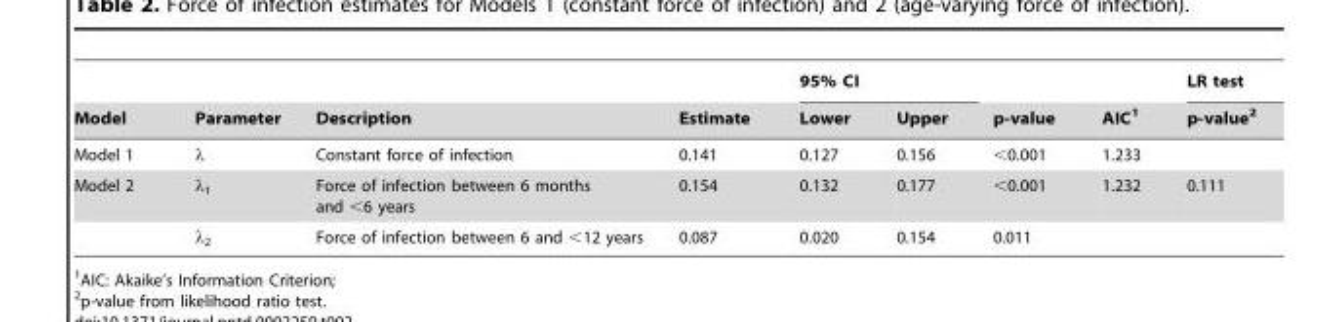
<table><thead><tr><td rowspan="2">Model</td><td rowspan="2">Parameter</td><td rowspan="2">Description</td><td rowspan="2">Estimate</td><td colspan="2">95% CI</td><td rowspan="2">p-value</td><td rowspan="2">AIC<sup>1</sup></td><td rowspan="2">LR test p-value<sup>2</sup></td></tr><tr><td>Lower</td><td>Upper</td></tr></thead><tbody><tr><td>Model 1</td><td>λ</td><td>Constant force of infection</td><td>0.141</td><td>0.127</td><td>0.156</td><td>&lt;0.001</td><td>1.233</td><td></td></tr><tr><td rowspan="2">Model 2</td><td>λ<sub>1</sub></td><td>Force of infection between 6 months and &lt;6 years</td><td>0.154</td><td>0.132</td><td>0.177</td><td>&lt;0.001</td><td>1.232</td><td>0.111</td></tr><tr><td>λ<sub>2</sub></td><td>Force of infection between 6 and &lt;12 years</td><td>0.087</td><td>0.020</td><td>0.154</td><td>0.011</td><td></td><td></td></tr></tbody></table>